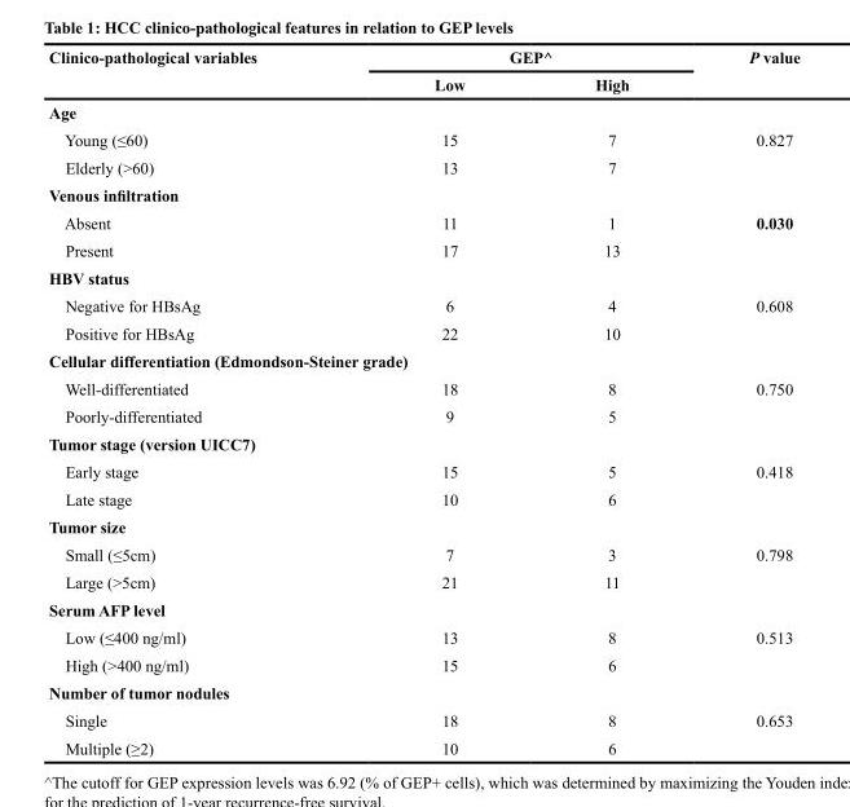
<table><thead><tr><td rowspan="2">Clinico-pathological variables</td><td colspan="2">GEP^</td><td rowspan="2">P value</td></tr><tr><td>Low</td><td>High</td></tr></thead><tbody><tr><td colspan="4">Age</td></tr><tr><td>Young (≤60)</td><td>15</td><td>7</td><td>0.827</td></tr><tr><td>Elderly (&gt;60)</td><td>13</td><td>7</td><td></td></tr><tr><td colspan="4">Venous infiltration</td></tr><tr><td>Absent</td><td>11</td><td>1</td><td>0.030</td></tr><tr><td>Present</td><td>17</td><td>13</td><td></td></tr><tr><td colspan="4">HBV status</td></tr><tr><td>Negative for HBsAg</td><td>6</td><td>4</td><td>0.608</td></tr><tr><td>Positive for HBsAg</td><td>22</td><td>10</td><td></td></tr><tr><td colspan="4">Cellular differentiation (Edmondson-Steiner grade)</td></tr><tr><td>Well-differentiated</td><td>18</td><td>8</td><td>0.750</td></tr><tr><td>Poorly-differentiated</td><td>9</td><td>5</td><td></td></tr><tr><td colspan="4">Tumor stage (version UICC7)</td></tr><tr><td>Early stage</td><td>15</td><td>5</td><td>0.418</td></tr><tr><td>Late stage</td><td>10</td><td>6</td><td></td></tr><tr><td colspan="4">Tumor size</td></tr><tr><td>Small (≤5cm)</td><td>7</td><td>3</td><td>0.798</td></tr><tr><td>Large (&gt;5cm)</td><td>21</td><td>11</td><td></td></tr><tr><td colspan="4">Serum AFP level</td></tr><tr><td>Low (≤400 ng/ml)</td><td>13</td><td>8</td><td>0.513</td></tr><tr><td>High (&gt;400 ng/ml)</td><td>15</td><td>6</td><td></td></tr><tr><td colspan="4">Number of tumor nodules</td></tr><tr><td>Single</td><td>18</td><td>8</td><td>0.653</td></tr><tr><td>Multiple (≥2)</td><td>10</td><td>6</td><td></td></tr></tbody></table>